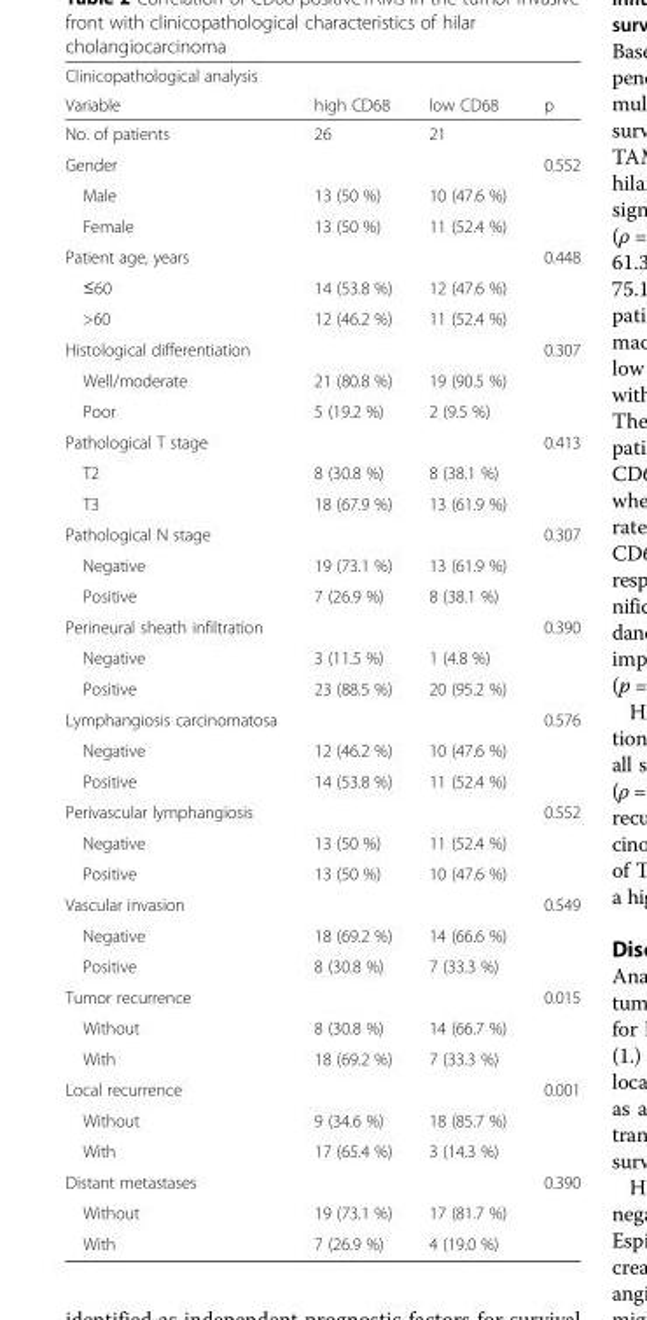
<table><thead><tr><td rowspan="2">Clinicopathological analysis Variable</td><td rowspan="2">high CD68</td><td rowspan="2">low CD68</td><td rowspan="2">p</td></tr><tr></tr></thead><tbody><tr><td>No. of patients</td><td>26</td><td>21</td><td></td></tr><tr><td>Gender</td><td></td><td></td><td>0.552</td></tr><tr><td>Male</td><td>13 (50 %)</td><td>10 (47.6 %)</td><td></td></tr><tr><td>Female</td><td>13 (50 %)</td><td>11 (52.4 %)</td><td></td></tr><tr><td>Patient age, years</td><td></td><td></td><td>0.448</td></tr><tr><td>≤60</td><td>14 (53.8 %)</td><td>12 (47.6 %)</td><td></td></tr><tr><td>&gt;60</td><td>12 (46.2 %)</td><td>11 (52.4 %)</td><td></td></tr><tr><td>Histological differentiation</td><td></td><td></td><td>0.307</td></tr><tr><td>Well/moderate</td><td>21 (80.8 %)</td><td>19 (90.5 %)</td><td></td></tr><tr><td>Poor</td><td>5 (19.2 %)</td><td>2 (9.5 %)</td><td></td></tr><tr><td>Pathological T stage</td><td></td><td></td><td>0.413</td></tr><tr><td>T2</td><td>8 (30.8 %)</td><td>8 (38.1 %)</td><td></td></tr><tr><td>T3</td><td>18 (67.9 %)</td><td>13 (61.9 %)</td><td></td></tr><tr><td>Pathological N stage</td><td></td><td></td><td>0.307</td></tr><tr><td>Negative</td><td>19 (73.1 %)</td><td>13 (61.9 %)</td><td></td></tr><tr><td>Positive</td><td>7 (26.9 %)</td><td>8 (38.1 %)</td><td></td></tr><tr><td>Perineural sheath infiltration</td><td></td><td></td><td>0.390</td></tr><tr><td>Negative</td><td>3 (11.5 %)</td><td>1 (4.8 %)</td><td></td></tr><tr><td>Positive</td><td>23 (88.5 %)</td><td>20 (95.2 %)</td><td></td></tr><tr><td>Lymphangiosis carcinomatosa</td><td></td><td></td><td>0.576</td></tr><tr><td>Negative</td><td>12 (46.2 %)</td><td>10 (47.6 %)</td><td></td></tr><tr><td>Positive</td><td>14 (53.8 %)</td><td>11 (52.4 %)</td><td></td></tr><tr><td>Perivascular lymphangiosis</td><td></td><td></td><td>0.552</td></tr><tr><td>Negative</td><td>13 (50 %)</td><td>11 (52.4 %)</td><td></td></tr><tr><td>Positive</td><td>13 (50 %)</td><td>10 (47.6 %)</td><td></td></tr><tr><td>Vascular invasion</td><td></td><td></td><td>0.549</td></tr><tr><td>Negative</td><td>18 (69.2 %)</td><td>14 (66.6 %)</td><td></td></tr><tr><td>Positive</td><td>8 (30.8 %)</td><td>7 (33.3 %)</td><td></td></tr><tr><td>Tumor recurrence</td><td></td><td></td><td>0.015</td></tr><tr><td>Without</td><td>8 (30.8 %)</td><td>14 (66.7 %)</td><td></td></tr><tr><td>With</td><td>18 (69.2 %)</td><td>7 (33.3 %)</td><td></td></tr><tr><td>Local recurrence</td><td></td><td></td><td>0.001</td></tr><tr><td>Without</td><td>9 (34.6 %)</td><td>18 (85.7 %)</td><td></td></tr><tr><td>With</td><td>17 (65.4 %)</td><td>3 (14.3 %)</td><td></td></tr><tr><td>Distant metastases</td><td></td><td></td><td>0.390</td></tr><tr><td>Without</td><td>19 (73.1 %)</td><td>17 (81.7 %)</td><td></td></tr><tr><td>With</td><td>7 (26.9 %)</td><td>4 (19.0 %)</td><td></td></tr></tbody></table>